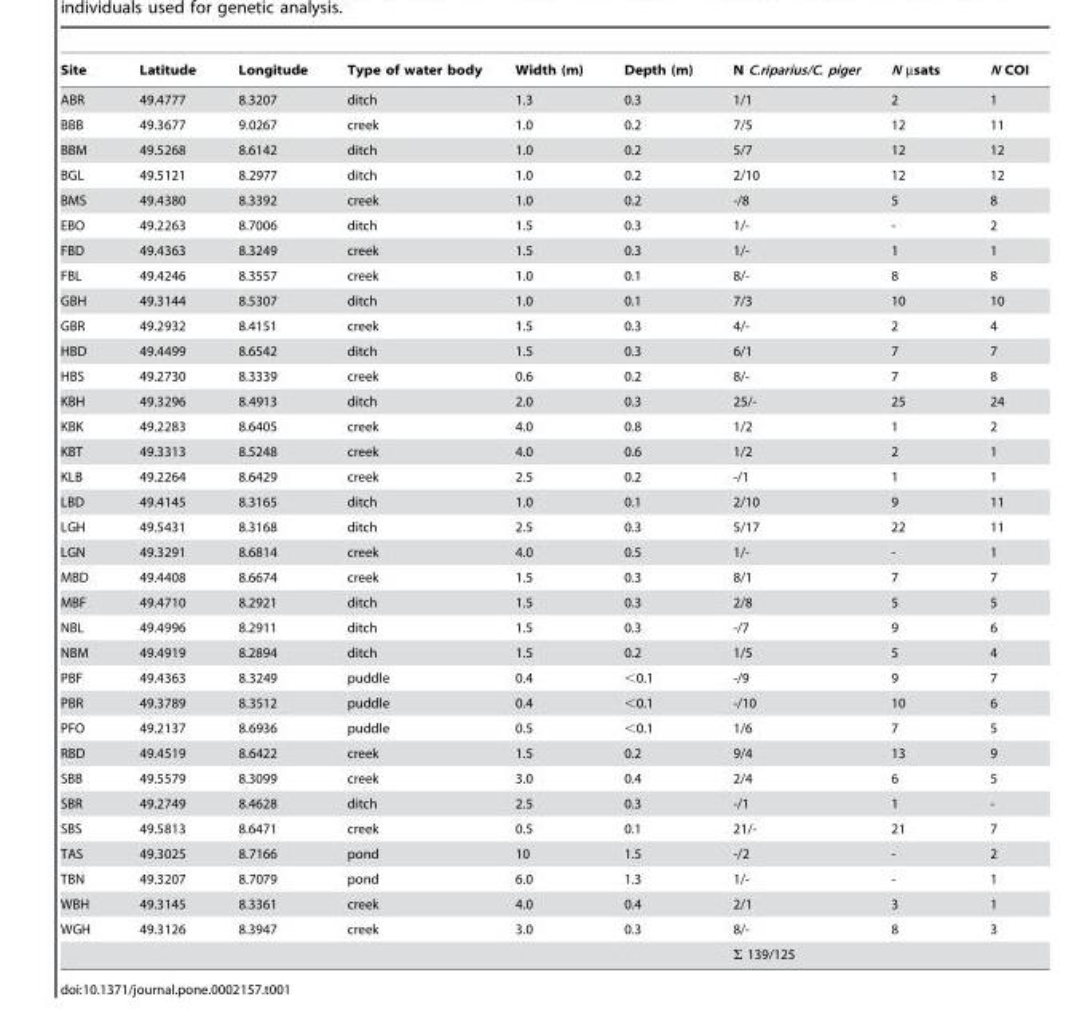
<table><thead><tr><td>Site</td><td>Latitude</td><td>Longitude</td><td>Type of water body</td><td>Width (m)</td><td>Depth (m)</td><td>N C.riparius/C. piger</td><td>N µsats</td><td>N COI</td></tr></thead><tbody><tr><td>ABR</td><td>49.4777</td><td>8.3207</td><td>ditch</td><td>1.3</td><td>0.3</td><td>1/1</td><td>2</td><td>1</td></tr><tr><td>BBB</td><td>49.3677</td><td>9.0267</td><td>creek</td><td>1.0</td><td>0.2</td><td>7/5</td><td>12</td><td>11</td></tr><tr><td>BBM</td><td>49.5268</td><td>8.6142</td><td>ditch</td><td>1.0</td><td>0.2</td><td>5/7</td><td>12</td><td>12</td></tr><tr><td>BGL</td><td>49.5121</td><td>8.2977</td><td>ditch</td><td>1.0</td><td>0.2</td><td>2/10</td><td>12</td><td>12</td></tr><tr><td>BMS</td><td>49.4380</td><td>8.3392</td><td>creek</td><td>1.0</td><td>0.2</td><td>-/8</td><td>5</td><td>8</td></tr><tr><td>EBO</td><td>49.2263</td><td>8.7006</td><td>ditch</td><td>1.5</td><td>0.3</td><td>1/-</td><td>-</td><td>2</td></tr><tr><td>FBD</td><td>49.4363</td><td>8.3249</td><td>creek</td><td>1.5</td><td>0.3</td><td>1/-</td><td>1</td><td>1</td></tr><tr><td>FBL</td><td>49.4246</td><td>8.3557</td><td>creek</td><td>1.0</td><td>0.1</td><td>8/-</td><td>8</td><td>8</td></tr><tr><td>GBH</td><td>49.3144</td><td>8.5307</td><td>ditch</td><td>1.0</td><td>0.1</td><td>7/3</td><td>10</td><td>10</td></tr><tr><td>GBR</td><td>49.2932</td><td>8.4151</td><td>creek</td><td>1.5</td><td>0.3</td><td>4/-</td><td>2</td><td>4</td></tr><tr><td>HBD</td><td>49.4499</td><td>8.6542</td><td>ditch</td><td>1.5</td><td>0.3</td><td>6/1</td><td>7</td><td>7</td></tr><tr><td>HBS</td><td>49.2730</td><td>8.3339</td><td>creek</td><td>0.6</td><td>0.2</td><td>8/-</td><td>7</td><td>8</td></tr><tr><td>KBH</td><td>49.3296</td><td>8.4913</td><td>ditch</td><td>2.0</td><td>0.3</td><td>25/-</td><td>25</td><td>24</td></tr><tr><td>KBK</td><td>49.2283</td><td>8.6405</td><td>creek</td><td>4.0</td><td>0.8</td><td>1/2</td><td>1</td><td>2</td></tr><tr><td>KBT</td><td>49.3313</td><td>8.5248</td><td>creek</td><td>4.0</td><td>0.6</td><td>1/2</td><td>2</td><td>1</td></tr><tr><td>KLB</td><td>49.2264</td><td>8.6429</td><td>creek</td><td>2.5</td><td>0.2</td><td>-/1</td><td>1</td><td>1</td></tr><tr><td>LBD</td><td>49.4145</td><td>8.3165</td><td>ditch</td><td>1.0</td><td>0.1</td><td>2/10</td><td>9</td><td>11</td></tr><tr><td>LGH</td><td>49.5431</td><td>8.3168</td><td>ditch</td><td>2.5</td><td>0.3</td><td>5/17</td><td>22</td><td>11</td></tr><tr><td>LGN</td><td>49.3291</td><td>8.6814</td><td>creek</td><td>4.0</td><td>0.5</td><td>1/-</td><td>-</td><td>1</td></tr><tr><td>MBD</td><td>49.4408</td><td>8.6674</td><td>creek</td><td>1.5</td><td>0.3</td><td>8/1</td><td>7</td><td>7</td></tr><tr><td>MBF</td><td>49.4710</td><td>8.2921</td><td>ditch</td><td>1.5</td><td>0.3</td><td>2/8</td><td>5</td><td>5</td></tr><tr><td>NBL</td><td>49.4996</td><td>8.2911</td><td>ditch</td><td>1.5</td><td>0.3</td><td>-/7</td><td>9</td><td>6</td></tr><tr><td>NBM</td><td>49.4919</td><td>8.2894</td><td>ditch</td><td>1.5</td><td>0.2</td><td>1/5</td><td>5</td><td>4</td></tr><tr><td>PBF</td><td>49.4363</td><td>8.3249</td><td>puddle</td><td>0.4</td><td>&lt;0.1</td><td>-/9</td><td>9</td><td>7</td></tr><tr><td>PBR</td><td>49.3789</td><td>8.3512</td><td>puddle</td><td>0.4</td><td>&lt;0.1</td><td>-/10</td><td>10</td><td>6</td></tr><tr><td>PFO</td><td>49.2137</td><td>8.6936</td><td>puddle</td><td>0.5</td><td>&lt;0.1</td><td>1/6</td><td>7</td><td>5</td></tr><tr><td>RBD</td><td>49.4519</td><td>8.6422</td><td>creek</td><td>1.5</td><td>0.2</td><td>9/4</td><td>13</td><td>9</td></tr><tr><td>SBB</td><td>49.5579</td><td>8.3099</td><td>creek</td><td>3.0</td><td>0.4</td><td>2/4</td><td>6</td><td>5</td></tr><tr><td>SBR</td><td>49.2749</td><td>8.4628</td><td>ditch</td><td>2.5</td><td>0.3</td><td>-/1</td><td>1</td><td>-</td></tr><tr><td>SBS</td><td>49.5813</td><td>8.6471</td><td>creek</td><td>0.5</td><td>0.1</td><td>21/-</td><td>21</td><td>7</td></tr><tr><td>TAS</td><td>49.3025</td><td>8.7166</td><td>pond</td><td>10</td><td>1.5</td><td>-/2</td><td>-</td><td>2</td></tr><tr><td>TBN</td><td>49.3207</td><td>8.7079</td><td>pond</td><td>6.0</td><td>1.3</td><td>1/-</td><td>-</td><td>1</td></tr><tr><td>WBH</td><td>49.3145</td><td>8.3361</td><td>creek</td><td>4.0</td><td>0.4</td><td>2/1</td><td>3</td><td>1</td></tr><tr><td rowspan="2">WGH</td><td>49.3126</td><td>8.3947</td><td>creek</td><td>3.0</td><td>0.3</td><td>8/-</td><td>8</td><td>3</td></tr><tr><td></td><td></td><td></td><td></td><td></td><td>Σ 139/125</td><td></td><td></td></tr></tbody></table>